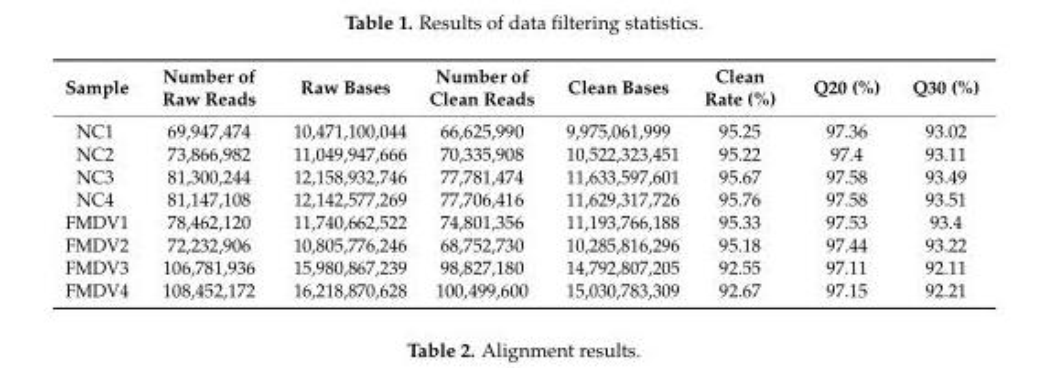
<table><thead><tr><td>Sample</td><td>Number of Raw Reads</td><td>Raw Bases</td><td>Number of Clean Reads</td><td>Clean Bases</td><td>Clean Rate (%)</td><td>Q20 (%)</td><td>Q30 (%)</td></tr></thead><tbody><tr><td>NC1</td><td>69,947,474</td><td>10,471,100,044</td><td>66,625,990</td><td>9,975,061,999</td><td>95.25</td><td>97.36</td><td>93.02</td></tr><tr><td>NC2</td><td>73,866,982</td><td>11,049,947,666</td><td>70,335,908</td><td>10,522,323,451</td><td>95.22</td><td>97.4</td><td>93.11</td></tr><tr><td>NC3</td><td>81,300,244</td><td>12,158,932,746</td><td>77,781,474</td><td>11,633,597,601</td><td>95.67</td><td>97.58</td><td>93.49</td></tr><tr><td>NC4</td><td>81,147,108</td><td>12,142,577,269</td><td>77,706,416</td><td>11,629,317,726</td><td>95.76</td><td>97.58</td><td>93.51</td></tr><tr><td>FMDV1</td><td>78,462,120</td><td>11,740,662,522</td><td>74,801,356</td><td>11,193,766,188</td><td>95.33</td><td>97.53</td><td>93.4</td></tr><tr><td>FMDV2</td><td>72,232,906</td><td>10,805,776,246</td><td>68,752,730</td><td>10,285,816,296</td><td>95.18</td><td>97.44</td><td>93.22</td></tr><tr><td>FMDV3</td><td>106,781,936</td><td>15,980,867,239</td><td>98,827,180</td><td>14,792,807,205</td><td>92.55</td><td>97.11</td><td>92.11</td></tr><tr><td>FMDV4</td><td>108,452,172</td><td>16,218,870,628</td><td>100,499,600</td><td>15,030,783,309</td><td>92.67</td><td>97.15</td><td>92.21</td></tr></tbody></table>